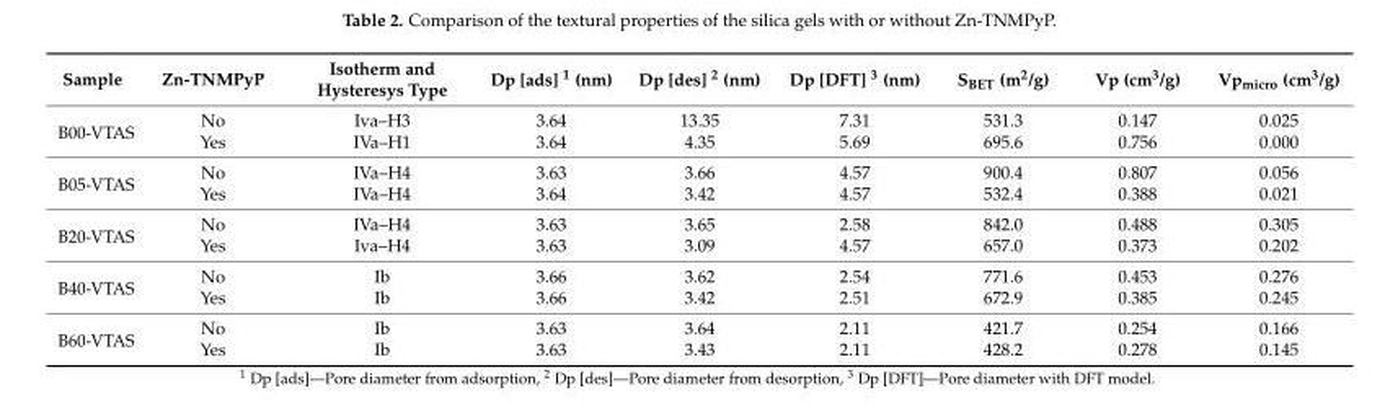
<table><thead><tr><td>Sample</td><td>Zn-TNMPyP</td><td>Isotherm and Hysteresys Type</td><td>Dp [ads] <sup>1</sup> (nm)</td><td>Dp [des] <sup>2</sup> (nm)</td><td>Dp [DFT] <sup>3</sup> (nm)</td><td>S<sub>BET</sub> (m<sup>2</sup>/g)</td><td>Vp (cm<sup>3</sup>/g)</td><td>Vp<sub>micro</sub> (cm<sup>3</sup>/g)</td></tr></thead><tbody><tr><td rowspan="2">B00-VTAS</td><td>No</td><td>Iva–H3</td><td>3.64</td><td>13.35</td><td>7.31</td><td>531.3</td><td>0.147</td><td>0.025</td></tr><tr><td>Yes</td><td>IVa–H1</td><td>3.64</td><td>4.35</td><td>5.69</td><td>695.6</td><td>0.756</td><td>0.000</td></tr><tr><td rowspan="2">B05-VTAS</td><td>No</td><td>IVa–H4</td><td>3.63</td><td>3.66</td><td>4.57</td><td>900.4</td><td>0.807</td><td>0.056</td></tr><tr><td>Yes</td><td>IVa–H4</td><td>3.64</td><td>3.42</td><td>4.57</td><td>532.4</td><td>0.388</td><td>0.021</td></tr><tr><td rowspan="2">B20-VTAS</td><td>No</td><td>IVa–H4</td><td>3.63</td><td>3.65</td><td>2.58</td><td>842.0</td><td>0.488</td><td>0.305</td></tr><tr><td>Yes</td><td>Iva–H4</td><td>3.63</td><td>3.09</td><td>4.57</td><td>657.0</td><td>0.373</td><td>0.202</td></tr><tr><td rowspan="2">B40-VTAS</td><td>No</td><td>Ib</td><td>3.66</td><td>3.62</td><td>2.54</td><td>771.6</td><td>0.453</td><td>0.276</td></tr><tr><td>Yes</td><td>Ib</td><td>3.66</td><td>3.42</td><td>2.51</td><td>672.9</td><td>0.385</td><td>0.245</td></tr><tr><td rowspan="2">B60-VTAS</td><td>No</td><td>Ib</td><td>3.63</td><td>3.64</td><td>2.11</td><td>421.7</td><td>0.254</td><td>0.166</td></tr><tr><td>Yes</td><td>Ib</td><td>3.63</td><td>3.43</td><td>2.11</td><td>428.2</td><td>0.278</td><td>0.145</td></tr></tbody></table>